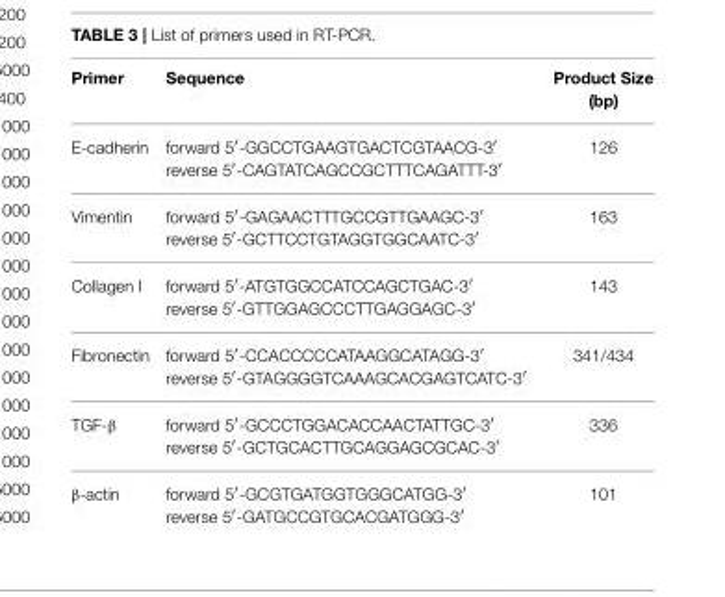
<table><thead><tr><td>Primer</td><td>Sequence</td><td>Product Size (bp)</td></tr></thead><tbody><tr><td>E-cadherin</td><td>forward 5′-GGCCTGAAGTGACTCGTAACG-3′ reverse 5′-CAGTATCAGCCGCTTTCAGATTT-3′</td><td>126</td></tr><tr><td>Vimentin</td><td>forward 5′-GAGAACTTTGCCGTTGAAGC-3′ reverse 5′-GCTTCCTGTAGGTGGCAATC-3′</td><td>163</td></tr><tr><td>Collagen I</td><td>forward 5′-ATGTGGCCATCCAGCTGAC-3′ reverse 5′-GTTGGAGCCCTTGAGGAGC-3′</td><td>143</td></tr><tr><td>Fibronectin</td><td>forward 5′-CCACCCCCATAAGGCATAGG-3′ reverse 5′-GTAGGGGTCAAAGCACGAGTCATC-3′</td><td>341/434</td></tr><tr><td>TGF-β</td><td>forward 5′-GCCCTGGACACCAACTATTGC-3′ reverse 5′-GCTGCACTTGCAGGAGCGCAC-3′</td><td>336</td></tr><tr><td>β-actin</td><td>forward 5′-GCGTGATGGTGGGCATGG-3′ reverse 5′-GATGCCGTGCACGATGGG-3′</td><td>101</td></tr></tbody></table>